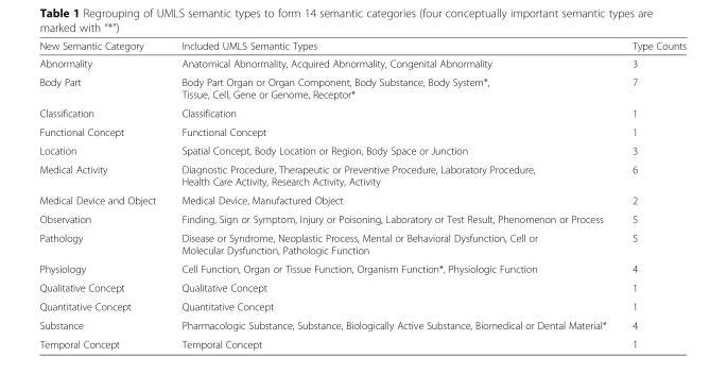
<table><thead><tr><td>New Semantic Category</td><td>Included UMLS Semantic Types</td><td>Type Counts</td></tr></thead><tbody><tr><td>Abnormality</td><td>Anatomical Abnormality, Acquired Abnormality, Congenital Abnormality</td><td>3</td></tr><tr><td>Body Part</td><td>Body Part Organ or Organ Component, Body Substance, Body System*, Tissue, Cell, Gene or Genome, Receptor*</td><td>7</td></tr><tr><td>Classification</td><td>Classification</td><td>1</td></tr><tr><td>Functional Concept</td><td>Functional Concept</td><td>1</td></tr><tr><td>Location</td><td>Spatial Concept, Body Location or Region, Body Space or Junction</td><td>3</td></tr><tr><td>Medical Activity</td><td>Diagnostic Procedure, Therapeutic or Preventive Procedure, Laboratory Procedure, Health Care Activity, Research Activity, Activity</td><td>6</td></tr><tr><td>Medical Device and Object</td><td>Medical Device, Manufactured Object</td><td>2</td></tr><tr><td>Observation</td><td>Finding, Sign or Symptom, Injury or Poisoning, Laboratory or Test Result, Phenomenon or Process</td><td>5</td></tr><tr><td>Pathology</td><td>Disease or Syndrome, Neoplastic Process, Mental or Behavioral Dysfunction, Cell or Molecular Dysfunction, Pathologic Function</td><td>5</td></tr><tr><td>Physiology</td><td>Cell Function, Organ or Tissue Function, Organism Function*, Physiologic Function</td><td>4</td></tr><tr><td>Qualitative Concept</td><td>Qualitative Concept</td><td>1</td></tr><tr><td>Quantitative Concept</td><td>Quantitative Concept</td><td>1</td></tr><tr><td>Substance</td><td>Pharmacologic Substance, Substance, Biologically Active Substance, Biomedical or Dental Material*</td><td>4</td></tr><tr><td>Temporal Concept</td><td>Temporal Concept</td><td>1</td></tr></tbody></table>